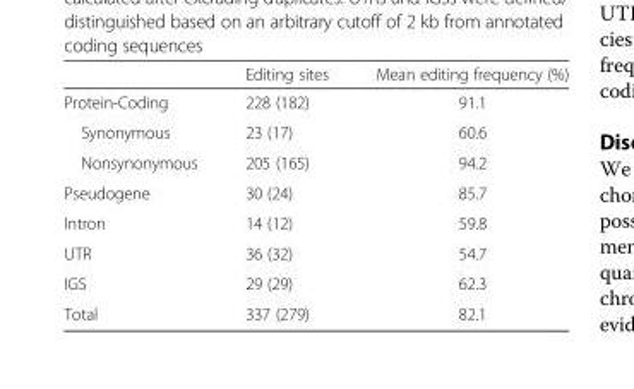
<table><thead><tr><td></td><td>Editing sites</td><td>Mean editing frequency (%)</td></tr></thead><tbody><tr><td>Protein-Coding</td><td>228 (182)</td><td>91.1</td></tr><tr><td>Synonymous</td><td>23 (17)</td><td>60.6</td></tr><tr><td>Nonsynonymous</td><td>205 (165)</td><td>94.2</td></tr><tr><td>Pseudogene</td><td>30 (24)</td><td>85.7</td></tr><tr><td>Intron</td><td>14 (12)</td><td>59.8</td></tr><tr><td>UTR</td><td>36 (32)</td><td>54.7</td></tr><tr><td>IGS</td><td>29 (29)</td><td>62.3</td></tr><tr><td>Total</td><td>337 (279)</td><td>82.1</td></tr></tbody></table>